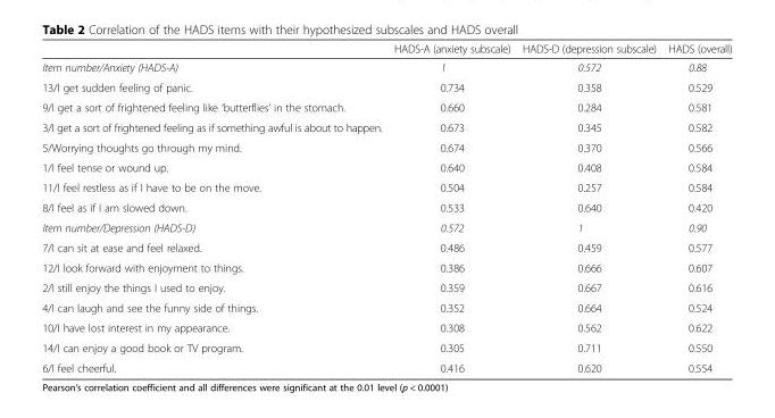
<table><thead><tr><td></td><td>HADS-A (anxiety subscale)</td><td>HADS-D (depression subscale)</td><td>HADS (overall)</td></tr></thead><tbody><tr><td>Item number/Anxiety (HADS-A)</td><td>1</td><td>0.572</td><td>0.88</td></tr><tr><td>13/I get sudden feeling of panic.</td><td>0.734</td><td>0.358</td><td>0.529</td></tr><tr><td>9/I get a sort of frightened feeling like ‘butterflies’ in the stomach.</td><td>0.660</td><td>0.284</td><td>0.581</td></tr><tr><td>3/I get a sort of frightened feeling as if something awful is about to happen.</td><td>0.673</td><td>0.345</td><td>0.582</td></tr><tr><td>5/Worrying thoughts go through my mind.</td><td>0.674</td><td>0.370</td><td>0.566</td></tr><tr><td>1/I feel tense or wound up.</td><td>0.640</td><td>0.408</td><td>0.584</td></tr><tr><td>11/I feel restless as if I have to be on the move.</td><td>0.504</td><td>0.257</td><td>0.584</td></tr><tr><td>8/I feel as if I am slowed down.</td><td>0.533</td><td>0.640</td><td>0.420</td></tr><tr><td>Item number/Depression (HADS-D)</td><td>0.572</td><td>1</td><td>0.90</td></tr><tr><td>7/I can sit at ease and feel relaxed.</td><td>0.486</td><td>0.459</td><td>0.577</td></tr><tr><td>12/I look forward with enjoyment to things.</td><td>0.386</td><td>0.666</td><td>0.607</td></tr><tr><td>2/I still enjoy the things I used to enjoy.</td><td>0.359</td><td>0.667</td><td>0.616</td></tr><tr><td>4/I can laugh and see the funny side of things.</td><td>0.352</td><td>0.664</td><td>0.524</td></tr><tr><td>10/I have lost interest in my appearance.</td><td>0.308</td><td>0.562</td><td>0.622</td></tr><tr><td>14/I can enjoy a good book or TV program.</td><td>0.305</td><td>0.711</td><td>0.550</td></tr><tr><td>6/I feel cheerful.</td><td>0.416</td><td>0.620</td><td>0.554</td></tr></tbody></table>